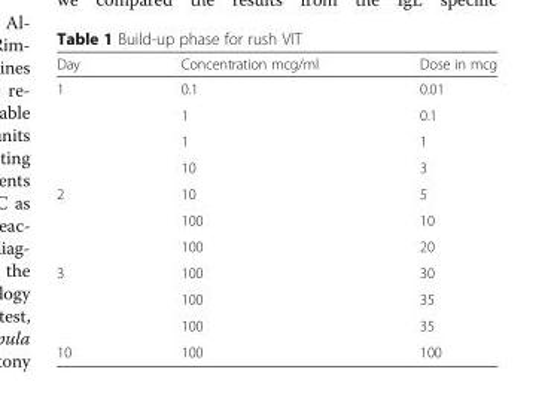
<table><thead><tr><td>Day</td><td>Concentration mcg/ml</td><td>Dose in mcg</td></tr></thead><tbody><tr><td rowspan="4">1</td><td>0.1</td><td>0.01</td></tr><tr><td>1</td><td>0.1</td></tr><tr><td>1</td><td>1</td></tr><tr><td>10</td><td>3</td></tr><tr><td rowspan="3">2</td><td>10</td><td>5</td></tr><tr><td>100</td><td>10</td></tr><tr><td>100</td><td>20</td></tr><tr><td rowspan="3">3</td><td>100</td><td>30</td></tr><tr><td>100</td><td>35</td></tr><tr><td>100</td><td>35</td></tr><tr><td>10</td><td>100</td><td>100</td></tr></tbody></table>